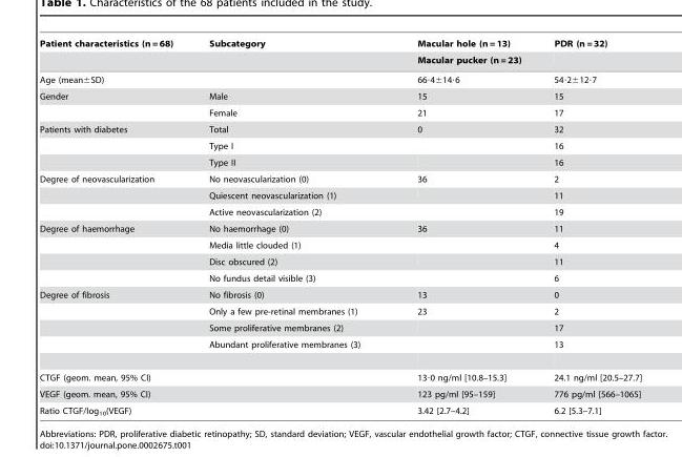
<table><thead><tr><td rowspan="2">Patient characteristics (n = 68)</td><td rowspan="2">Subcategory</td><td rowspan="2">Macular hole (n = 13) Macular pucker (n = 23)</td><td rowspan="2">PDR (n = 32)</td></tr><tr></tr></thead><tbody><tr><td>Age (mean±SD)</td><td></td><td>66·4±14·6</td><td>54·2±12·7</td></tr><tr><td rowspan="2">Gender</td><td>Male</td><td>15</td><td>15</td></tr><tr><td>Female</td><td>21</td><td>17</td></tr><tr><td rowspan="3">Patients with diabetes</td><td>Total</td><td>0</td><td>32</td></tr><tr><td>Type I</td><td></td><td>16</td></tr><tr><td>Type II</td><td></td><td>16</td></tr><tr><td rowspan="3">Degree of neovascularization</td><td>No neovascularization (0)</td><td>36</td><td>2</td></tr><tr><td>Quiescent neovascularization (1)</td><td></td><td>11</td></tr><tr><td>Active neovascularization (2)</td><td></td><td>19</td></tr><tr><td rowspan="4">Degree of haemorrhage</td><td>No haemorrhage (0)</td><td>36</td><td>11</td></tr><tr><td>Media little clouded (1)</td><td></td><td>4</td></tr><tr><td>Disc obscured (2)</td><td></td><td>11</td></tr><tr><td>No fundus detail visible (3)</td><td></td><td>6</td></tr><tr><td rowspan="4">Degree of fibrosis</td><td>No fibrosis (0)</td><td>13</td><td>0</td></tr><tr><td>Only a few pre-retinal membranes (1)</td><td>23</td><td>2</td></tr><tr><td>Some proliferative membranes (2)</td><td></td><td>17</td></tr><tr><td>Abundant proliferative membranes (3)</td><td></td><td>13</td></tr><tr><td>CTGF (geom. mean, 95% CI)</td><td></td><td>13·0 ng/ml [10.8–15.3]</td><td>24.1 ng/ml [20.5–27.7]</td></tr><tr><td>VEGF (geom. mean, 95% CI)</td><td></td><td>123 pg/ml [95–159]</td><td>776 pg/ml [566–1065]</td></tr><tr><td>Ratio CTGF/log<sub>10</sub>(VEGF)</td><td></td><td>3.42 [2.7–4.2]</td><td>6.2 [5.3–7.1]</td></tr></tbody></table>